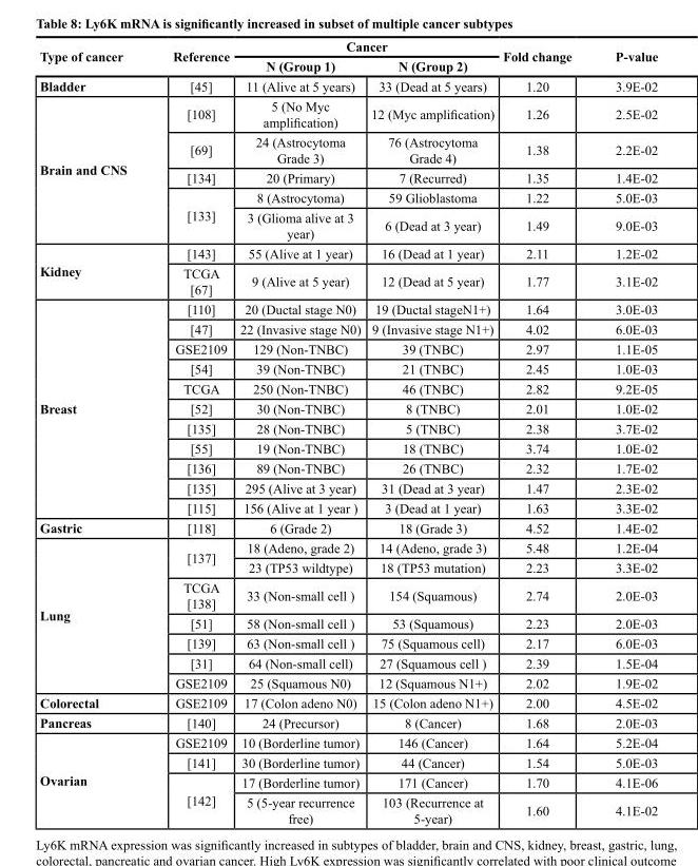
<table><thead><tr><td rowspan="2">Type of cancer</td><td rowspan="2">Reference</td><td colspan="2">Cancer</td><td rowspan="2">Fold change</td><td rowspan="2">P-value</td></tr><tr><td>N (Group 1)</td><td>N (Group 2)</td></tr></thead><tbody><tr><td>Bladder</td><td>[45]</td><td>11 (Alive at 5 years)</td><td>33 (Dead at 5 years)</td><td>1.20</td><td>3.9E-02</td></tr><tr><td rowspan="5">Brain and CNS</td><td>[108]</td><td>5 (No Myc amplification)</td><td>12 (Myc amplification)</td><td>1.26</td><td>2.5E-02</td></tr><tr><td>[69]</td><td>24 (Astrocytoma Grade 3)</td><td>76 (Astrocytoma Grade 4)</td><td>1.38</td><td>2.2E-02</td></tr><tr><td>[134]</td><td>20 (Primary)</td><td>7 (Recurred)</td><td>1.35</td><td>1.4E-02</td></tr><tr><td rowspan="2">[133]</td><td>8 (Astrocytoma)</td><td>59 Glioblastoma</td><td>1.22</td><td>5.0E-03</td></tr><tr><td>3 (Glioma alive at 3 year)</td><td>6 (Dead at 3 year)</td><td>1.49</td><td>9.0E-03</td></tr><tr><td rowspan="2">Kidney</td><td>[143]</td><td>55 (Alive at 1 year)</td><td>16 (Dead at 1 year)</td><td>2.11</td><td>1.2E-02</td></tr><tr><td>TCGA [67]</td><td>9 (Alive at 5 year)</td><td>12 (Dead at 5 year)</td><td>1.77</td><td>3.1E-02</td></tr><tr><td rowspan="11">Breast</td><td>[110]</td><td>20 (Ductal stage N0)</td><td>19 (Ductal stageN1+)</td><td>1.64</td><td>3.0E-03</td></tr><tr><td>[47]</td><td>22 (Invasive stage N0)</td><td>9 (Invasive stage N1+)</td><td>4.02</td><td>6.0E-03</td></tr><tr><td>GSE2109</td><td>129 (Non-TNBC)</td><td>39 (TNBC)</td><td>2.97</td><td>1.1E-05</td></tr><tr><td>[54]</td><td>39 (Non-TNBC)</td><td>21 (TNBC)</td><td>2.45</td><td>1.0E-03</td></tr><tr><td>TCGA</td><td>250 (Non-TNBC)</td><td>46 (TNBC)</td><td>2.82</td><td>9.2E-05</td></tr><tr><td>[52]</td><td>30 (Non-TNBC)</td><td>8 (TNBC)</td><td>2.01</td><td>1.0E-02</td></tr><tr><td>[135]</td><td>28 (Non-TNBC)</td><td>5 (TNBC)</td><td>2.38</td><td>3.7E-02</td></tr><tr><td>[55]</td><td>19 (Non-TNBC)</td><td>18 (TNBC)</td><td>3.74</td><td>1.0E-02</td></tr><tr><td>[136]</td><td>89 (Non-TNBC)</td><td>26 (TNBC)</td><td>2.32</td><td>1.7E-02</td></tr><tr><td>[135]</td><td>295 (Alive at 3 year)</td><td>31 (Dead at 3 year)</td><td>1.47</td><td>2.3E-02</td></tr><tr><td>[115]</td><td>156 (Alive at 1 year )</td><td>3 (Dead at 1 year)</td><td>1.63</td><td>3.3E-02</td></tr><tr><td>Gastric</td><td>[118]</td><td>6 (Grade 2)</td><td>18 (Grade 3)</td><td>4.52</td><td>1.4E-02</td></tr><tr><td rowspan="7">Lung</td><td rowspan="2">[137]</td><td>18 (Adeno, grade 2)</td><td>14 (Adeno, grade 3)</td><td>5.48</td><td>1.2E-04</td></tr><tr><td>23 (TP53 wildtype)</td><td>18 (TP53 mutation)</td><td>2.23</td><td>3.3E-02</td></tr><tr><td>TCGA [138]</td><td>33 (Non-small cell )</td><td>154 (Squamous)</td><td>2.74</td><td>2.0E-03</td></tr><tr><td>[51]</td><td>58 (Non-small cell )</td><td>53 (Squamous)</td><td>2.23</td><td>2.0E-03</td></tr><tr><td>[139]</td><td>63 (Non-small cell )</td><td>75 (Squamous cell)</td><td>2.17</td><td>6.0E-03</td></tr><tr><td>[31]</td><td>64 (Non-small cell)</td><td>27 (Squamous cell )</td><td>2.39</td><td>1.5E-04</td></tr><tr><td>GSE2109</td><td>25 (Squamous N0)</td><td>12 (Squamous N1+)</td><td>2.02</td><td>1.9E-02</td></tr><tr><td>Colorectal</td><td>GSE2109</td><td>17 (Colon adeno N0)</td><td>15 (Colon adeno N1+)</td><td>2.00</td><td>4.5E-02</td></tr><tr><td>Pancreas</td><td>[140]</td><td>24 (Precursor)</td><td>8 (Cancer)</td><td>1.68</td><td>2.0E-03</td></tr><tr><td rowspan="4">Ovarian</td><td>GSE2109</td><td>10 (Borderline tumor)</td><td>146 (Cancer)</td><td>1.64</td><td>5.2E-04</td></tr><tr><td>[141]</td><td>30 (Borderline tumor)</td><td>44 (Cancer)</td><td>1.54</td><td>5.0E-03</td></tr><tr><td rowspan="2">[142]</td><td>17 (Borderline tumor)</td><td>171 (Cancer)</td><td>1.70</td><td>4.1E-06</td></tr><tr><td>5 (5-year recurrence free)</td><td>103 (Recurrence at 5-year)</td><td>1.60</td><td>4.1E-02</td></tr></tbody></table>